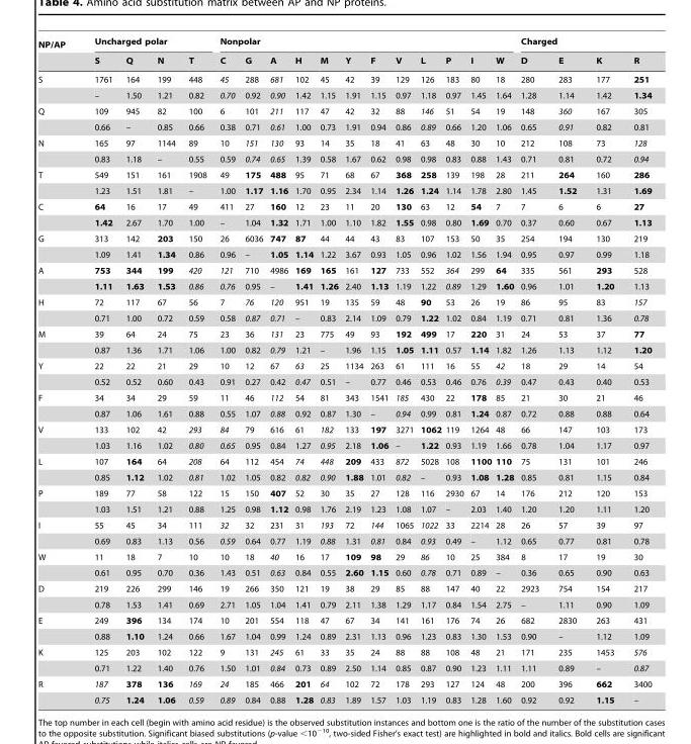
<table><thead><tr><td rowspan="2">NP/AP</td><td colspan="4">Uncharged polar</td><td colspan="12">Nonpolar</td><td colspan="4">Charged</td></tr><tr><td>S</td><td>Q</td><td>N</td><td>T</td><td>C</td><td>G</td><td>A</td><td>H</td><td>M</td><td>Y</td><td>F</td><td>V</td><td>L</td><td>P</td><td>I</td><td>W</td><td>D</td><td>E</td><td>K</td><td>R</td></tr></thead><tbody><tr><td rowspan="2">S</td><td>1761</td><td>164</td><td>199</td><td>448</td><td>45</td><td>288</td><td>681</td><td>102</td><td>45</td><td>42</td><td>39</td><td>129</td><td>126</td><td>183</td><td>80</td><td>18</td><td>280</td><td>283</td><td>177</td><td>251</td></tr><tr><td>–</td><td>1.50</td><td>1.21</td><td>0.82</td><td>0.70</td><td>0.92</td><td>0.90</td><td>1.42</td><td>1.15</td><td>1.91</td><td>1.15</td><td>0.97</td><td>1.18</td><td>0.97</td><td>1.45</td><td>1.64</td><td>1.28</td><td>1.14</td><td>1.42</td><td>1.34</td></tr><tr><td rowspan="2">Q</td><td>109</td><td>945</td><td>82</td><td>100</td><td>6</td><td>101</td><td>211</td><td>117</td><td>47</td><td>42</td><td>32</td><td>88</td><td>146</td><td>51</td><td>54</td><td>19</td><td>148</td><td>360</td><td>167</td><td>305</td></tr><tr><td>0.66</td><td>–</td><td>0.85</td><td>0.66</td><td>0.38</td><td>0.71</td><td>0.61</td><td>1.00</td><td>0.73</td><td>1.91</td><td>0.94</td><td>0.86</td><td>0.89</td><td>0.66</td><td>1.20</td><td>1.06</td><td>0.65</td><td>0.91</td><td>0.82</td><td>0.81</td></tr><tr><td rowspan="2">N</td><td>165</td><td>97</td><td>1144</td><td>89</td><td>10</td><td>151</td><td>130</td><td>93</td><td>14</td><td>35</td><td>18</td><td>41</td><td>63</td><td>48</td><td>30</td><td>10</td><td>212</td><td>108</td><td>73</td><td>128</td></tr><tr><td>0.83</td><td>1.18</td><td>–</td><td>0.55</td><td>0.59</td><td>0.74</td><td>0.65</td><td>1.39</td><td>0.58</td><td>1.67</td><td>0.62</td><td>0.98</td><td>0.98</td><td>0.83</td><td>0.88</td><td>1.43</td><td>0.71</td><td>0.81</td><td>0.72</td><td>0.94</td></tr><tr><td rowspan="2">T</td><td>549</td><td>151</td><td>161</td><td>1908</td><td>49</td><td>175</td><td>488</td><td>95</td><td>71</td><td>68</td><td>67</td><td>368</td><td>258</td><td>139</td><td>198</td><td>28</td><td>211</td><td>264</td><td>160</td><td>286</td></tr><tr><td>1.23</td><td>1.51</td><td>1.81</td><td>–</td><td>1.00</td><td>1.17</td><td>1.16</td><td>1.70</td><td>0.95</td><td>2.34</td><td>1.14</td><td>1.26</td><td>1.24</td><td>1.14</td><td>1.78</td><td>2.80</td><td>1.45</td><td>1.52</td><td>1.31</td><td>1.69</td></tr><tr><td rowspan="2">C</td><td>64</td><td>16</td><td>17</td><td>49</td><td>411</td><td>27</td><td>160</td><td>12</td><td>23</td><td>11</td><td>20</td><td>130</td><td>63</td><td>12</td><td>54</td><td>7</td><td>7</td><td>6</td><td>6</td><td>27</td></tr><tr><td>1.42</td><td>2.67</td><td>1.70</td><td>1.00</td><td>–</td><td>1.04</td><td>1.32</td><td>1.71</td><td>1.00</td><td>1.10</td><td>1.82</td><td>1.55</td><td>0.98</td><td>0.80</td><td>1.69</td><td>0.70</td><td>0.37</td><td>0.60</td><td>0.67</td><td>1.13</td></tr><tr><td rowspan="2">G</td><td>313</td><td>142</td><td>203</td><td>150</td><td>26</td><td>6036</td><td>747</td><td>87</td><td>44</td><td>44</td><td>43</td><td>83</td><td>107</td><td>153</td><td>50</td><td>35</td><td>254</td><td>194</td><td>130</td><td>219</td></tr><tr><td>1.09</td><td>1.41</td><td>1.34</td><td>0.86</td><td>0.96</td><td>–</td><td>1.05</td><td>1.14</td><td>1.22</td><td>3.67</td><td>0.93</td><td>1.05</td><td>0.96</td><td>1.02</td><td>1.56</td><td>1.94</td><td>0.95</td><td>0.97</td><td>0.99</td><td>1.18</td></tr><tr><td rowspan="2">A</td><td>753</td><td>344</td><td>199</td><td>420</td><td>121</td><td>710</td><td>4986</td><td>169</td><td>165</td><td>161</td><td>127</td><td>733</td><td>552</td><td>364</td><td>299</td><td>64</td><td>335</td><td>561</td><td>293</td><td>528</td></tr><tr><td>1.11</td><td>1.63</td><td>1.53</td><td>0.86</td><td>0.76</td><td>0.95</td><td>–</td><td>1.41</td><td>1.26</td><td>2.40</td><td>1.13</td><td>1.19</td><td>1.22</td><td>0.89</td><td>1.29</td><td>1.60</td><td>0.96</td><td>1.01</td><td>1.20</td><td>1.13</td></tr><tr><td rowspan="2">H</td><td>72</td><td>117</td><td>67</td><td>56</td><td>7</td><td>76</td><td>120</td><td>951</td><td>19</td><td>135</td><td>59</td><td>48</td><td>90</td><td>53</td><td>26</td><td>19</td><td>86</td><td>95</td><td>83</td><td>157</td></tr><tr><td>0.71</td><td>1.00</td><td>0.72</td><td>0.59</td><td>0.58</td><td>0.87</td><td>0.71</td><td>–</td><td>0.83</td><td>2.14</td><td>1.09</td><td>0.79</td><td>1.22</td><td>1.02</td><td>0.84</td><td>1.19</td><td>0.71</td><td>0.81</td><td>1.36</td><td>0.78</td></tr><tr><td rowspan="2">M</td><td>39</td><td>64</td><td>24</td><td>75</td><td>23</td><td>36</td><td>131</td><td>23</td><td>775</td><td>49</td><td>93</td><td>192</td><td>499</td><td>17</td><td>220</td><td>31</td><td>24</td><td>53</td><td>37</td><td>77</td></tr><tr><td>0.87</td><td>1.36</td><td>1.71</td><td>1.06</td><td>1.00</td><td>0.82</td><td>0.79</td><td>1.21</td><td>–</td><td>1.96</td><td>1.15</td><td>1.05</td><td>1.11</td><td>0.57</td><td>1.14</td><td>1.82</td><td>1.26</td><td>1.13</td><td>1.12</td><td>1.20</td></tr><tr><td rowspan="2">Y</td><td>22</td><td>22</td><td>21</td><td>29</td><td>10</td><td>12</td><td>67</td><td>63</td><td>25</td><td>1134</td><td>263</td><td>61</td><td>111</td><td>16</td><td>55</td><td>42</td><td>18</td><td>29</td><td>14</td><td>54</td></tr><tr><td>0.52</td><td>0.52</td><td>0.60</td><td>0.43</td><td>0.91</td><td>0.27</td><td>0.42</td><td>0.47</td><td>0.51</td><td>–</td><td>0.77</td><td>0.46</td><td>0.53</td><td>0.46</td><td>0.76</td><td>0.39</td><td>0.47</td><td>0.43</td><td>0.40</td><td>0.53</td></tr><tr><td rowspan="2">F</td><td>34</td><td>34</td><td>29</td><td>59</td><td>11</td><td>46</td><td>112</td><td>54</td><td>81</td><td>343</td><td>1541</td><td>185</td><td>430</td><td>22</td><td>178</td><td>85</td><td>21</td><td>30</td><td>21</td><td>46</td></tr><tr><td>0.87</td><td>1.06</td><td>1.61</td><td>0.88</td><td>0.55</td><td>1.07</td><td>0.88</td><td>0.92</td><td>0.87</td><td>1.30</td><td>–</td><td>0.94</td><td>0.99</td><td>0.81</td><td>1.24</td><td>0.87</td><td>0.72</td><td>0.88</td><td>0.88</td><td>0.64</td></tr><tr><td rowspan="2">V</td><td>133</td><td>102</td><td>42</td><td>293</td><td>84</td><td>79</td><td>616</td><td>61</td><td>182</td><td>133</td><td>197</td><td>3271</td><td>1062</td><td>119</td><td>1264</td><td>48</td><td>66</td><td>147</td><td>103</td><td>173</td></tr><tr><td>1.03</td><td>1.16</td><td>1.02</td><td>0.80</td><td>0.65</td><td>0.95</td><td>0.84</td><td>1.27</td><td>0.95</td><td>2.18</td><td>1.06</td><td>–</td><td>1.22</td><td>0.93</td><td>1.19</td><td>1.66</td><td>0.78</td><td>1.04</td><td>1.17</td><td>0.97</td></tr><tr><td rowspan="2">L</td><td>107</td><td>164</td><td>64</td><td>208</td><td>64</td><td>112</td><td>454</td><td>74</td><td>448</td><td>209</td><td>433</td><td>872</td><td>5028</td><td>108</td><td>1100</td><td>110</td><td>75</td><td>131</td><td>101</td><td>246</td></tr><tr><td>0.85</td><td>1.12</td><td>1.02</td><td>0.81</td><td>1.02</td><td>1.05</td><td>0.82</td><td>0.82</td><td>0.90</td><td>1.88</td><td>1.01</td><td>0.82</td><td>–</td><td>0.93</td><td>1.08</td><td>1.28</td><td>0.85</td><td>0.81</td><td>1.15</td><td>0.84</td></tr><tr><td rowspan="2">P</td><td>189</td><td>77</td><td>58</td><td>122</td><td>15</td><td>150</td><td>407</td><td>52</td><td>30</td><td>35</td><td>27</td><td>128</td><td>116</td><td>2930</td><td>67</td><td>14</td><td>176</td><td>212</td><td>120</td><td>153</td></tr><tr><td>1.03</td><td>1.51</td><td>1.21</td><td>0.88</td><td>1.25</td><td>0.98</td><td>1.12</td><td>0.98</td><td>1.76</td><td>2.19</td><td>1.23</td><td>1.08</td><td>1.07</td><td>–</td><td>2.03</td><td>1.40</td><td>1.20</td><td>1.20</td><td>1.11</td><td>1.20</td></tr><tr><td rowspan="2">I</td><td>55</td><td>45</td><td>34</td><td>111</td><td>32</td><td>32</td><td>231</td><td>31</td><td>193</td><td>72</td><td>144</td><td>1065</td><td>1022</td><td>33</td><td>2214</td><td>28</td><td>26</td><td>57</td><td>39</td><td>97</td></tr><tr><td>0.69</td><td>0.83</td><td>1.13</td><td>0.56</td><td>0.59</td><td>0.64</td><td>0.77</td><td>1.19</td><td>0.88</td><td>1.31</td><td>0.81</td><td>0.84</td><td>0.93</td><td>0.49</td><td>–</td><td>1.12</td><td>0.65</td><td>0.77</td><td>0.81</td><td>0.78</td></tr><tr><td rowspan="2">W</td><td>11</td><td>18</td><td>7</td><td>10</td><td>10</td><td>18</td><td>40</td><td>16</td><td>17</td><td>109</td><td>98</td><td>29</td><td>86</td><td>10</td><td>25</td><td>384</td><td>8</td><td>17</td><td>19</td><td>30</td></tr><tr><td>0.61</td><td>0.95</td><td>0.70</td><td>0.36</td><td>1.43</td><td>0.51</td><td>0.63</td><td>0.84</td><td>0.55</td><td>2.60</td><td>1.15</td><td>0.60</td><td>0.78</td><td>0.71</td><td>0.89</td><td>–</td><td>0.36</td><td>0.65</td><td>0.90</td><td>0.63</td></tr><tr><td rowspan="2">D</td><td>219</td><td>226</td><td>299</td><td>146</td><td>19</td><td>266</td><td>350</td><td>121</td><td>19</td><td>38</td><td>29</td><td>85</td><td>88</td><td>147</td><td>40</td><td>22</td><td>2923</td><td>754</td><td>154</td><td>217</td></tr><tr><td>0.78</td><td>1.53</td><td>1.41</td><td>0.69</td><td>2.71</td><td>1.05</td><td>1.04</td><td>1.41</td><td>0.79</td><td>2.11</td><td>1.38</td><td>1.29</td><td>1.17</td><td>0.84</td><td>1.54</td><td>2.75</td><td>–</td><td>1.11</td><td>0.90</td><td>1.09</td></tr><tr><td rowspan="2">E</td><td>249</td><td>396</td><td>134</td><td>174</td><td>10</td><td>201</td><td>554</td><td>118</td><td>47</td><td>67</td><td>34</td><td>141</td><td>161</td><td>176</td><td>74</td><td>26</td><td>682</td><td>2830</td><td>263</td><td>431</td></tr><tr><td>0.88</td><td>1.10</td><td>1.24</td><td>0.66</td><td>1.67</td><td>1.04</td><td>0.99</td><td>1.24</td><td>0.89</td><td>2.31</td><td>1.13</td><td>0.96</td><td>1.23</td><td>0.83</td><td>1.30</td><td>1.53</td><td>0.90</td><td>–</td><td>1.12</td><td>1.09</td></tr><tr><td rowspan="2">K</td><td>125</td><td>203</td><td>102</td><td>122</td><td>9</td><td>131</td><td>245</td><td>61</td><td>33</td><td>35</td><td>24</td><td>88</td><td>88</td><td>108</td><td>48</td><td>21</td><td>171</td><td>235</td><td>1453</td><td>576</td></tr><tr><td>0.71</td><td>1.22</td><td>1.40</td><td>0.76</td><td>1.50</td><td>1.01</td><td>0.84</td><td>0.73</td><td>0.89</td><td>2.50</td><td>1.14</td><td>0.85</td><td>0.87</td><td>0.90</td><td>1.23</td><td>1.11</td><td>1.11</td><td>0.89</td><td>–</td><td>0.87</td></tr><tr><td rowspan="2">R</td><td>187</td><td>378</td><td>136</td><td>169</td><td>24</td><td>185</td><td>466</td><td>201</td><td>64</td><td>102</td><td>72</td><td>178</td><td>293</td><td>127</td><td>124</td><td>48</td><td>200</td><td>396</td><td>662</td><td>3400</td></tr><tr><td>0.75</td><td>1.24</td><td>1.06</td><td>0.59</td><td>0.89</td><td>0.84</td><td>0.88</td><td>1.28</td><td>0.83</td><td>1.89</td><td>1.57</td><td>1.03</td><td>1.19</td><td>0.83</td><td>1.28</td><td>1.60</td><td>0.92</td><td>0.92</td><td>1.15</td><td>–</td></tr></tbody></table>